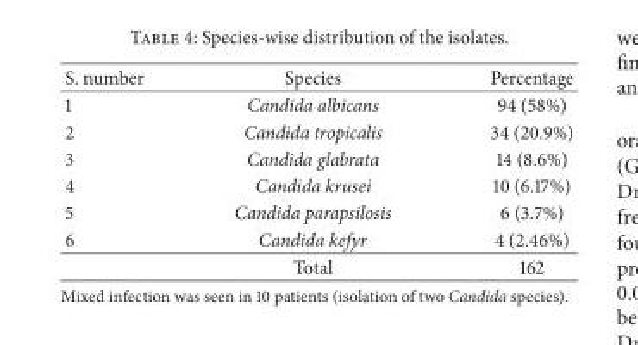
<table><thead><tr><td>S. number</td><td>Species</td><td>Percentage</td></tr></thead><tbody><tr><td>1</td><td>Candida albicans</td><td>94 (58%)</td></tr><tr><td>2</td><td>Candida tropicalis</td><td>34 (20.9%)</td></tr><tr><td>3</td><td>Candida glabrata</td><td>14 (8.6%)</td></tr><tr><td>4</td><td>Candida krusei</td><td>10 (6.17%)</td></tr><tr><td>5</td><td>Candida parapsilosis</td><td>6 (3.7%)</td></tr><tr><td rowspan="2">6</td><td>Candida kefyr</td><td>4 (2.46%)</td></tr><tr><td>Total</td><td>162</td></tr></tbody></table>